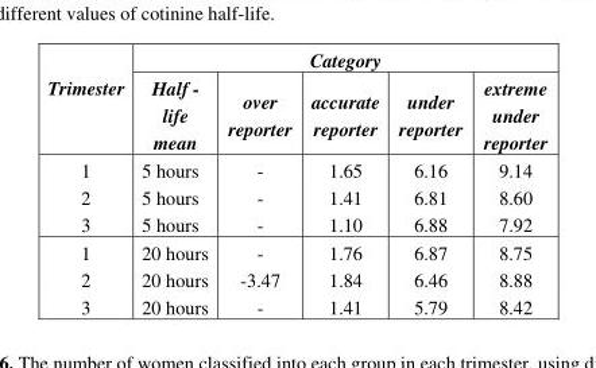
<table><thead><tr><td rowspan="2">Trimester</td><td colspan="5">Category</td></tr><tr><td>Half - life mean</td><td>over reporter</td><td>accurate reporter</td><td>under reporter</td><td>extreme under reporter</td></tr></thead><tbody><tr><td>1</td><td>5 hours</td><td>-</td><td>1.65</td><td>6.16</td><td>9.14</td></tr><tr><td>2</td><td>5 hours</td><td>-</td><td>1.41</td><td>6.81</td><td>8.60</td></tr><tr><td>3</td><td>5 hours</td><td>-</td><td>1.10</td><td>6.88</td><td>7.92</td></tr><tr><td>1</td><td>20 hours</td><td>-</td><td>1.76</td><td>6.87</td><td>8.75</td></tr><tr><td>2</td><td>20 hours</td><td>-3.47</td><td>1.84</td><td>6.46</td><td>8.88</td></tr><tr><td>3</td><td>20 hours</td><td>-</td><td>1.41</td><td>5.79</td><td>8.42</td></tr></tbody></table>